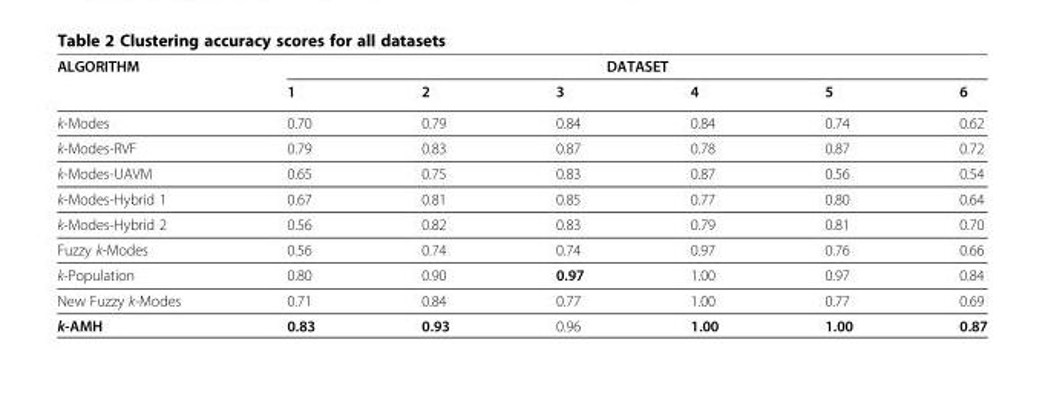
<table><thead><tr><td rowspan="2">ALGORITHM</td><td colspan="6">DATASET</td></tr><tr><td>1</td><td>2</td><td>3</td><td>4</td><td>5</td><td>6</td></tr></thead><tbody><tr><td>k-Modes</td><td>0.70</td><td>0.79</td><td>0.84</td><td>0.84</td><td>0.74</td><td>0.62</td></tr><tr><td>k-Modes-RVF</td><td>0.79</td><td>0.83</td><td>0.87</td><td>0.78</td><td>0.87</td><td>0.72</td></tr><tr><td>k-Modes-UAVM</td><td>0.65</td><td>0.75</td><td>0.83</td><td>0.87</td><td>0.56</td><td>0.54</td></tr><tr><td>k-Modes-Hybrid 1</td><td>0.67</td><td>0.81</td><td>0.85</td><td>0.77</td><td>0.80</td><td>0.64</td></tr><tr><td>k-Modes-Hybrid 2</td><td>0.56</td><td>0.82</td><td>0.83</td><td>0.79</td><td>0.81</td><td>0.70</td></tr><tr><td>Fuzzy k-Modes</td><td>0.56</td><td>0.74</td><td>0.74</td><td>0.97</td><td>0.76</td><td>0.66</td></tr><tr><td>k-Population</td><td>0.80</td><td>0.90</td><td>0.97</td><td>1.00</td><td>0.97</td><td>0.84</td></tr><tr><td>New Fuzzy k-Modes</td><td>0.71</td><td>0.84</td><td>0.77</td><td>1.00</td><td>0.77</td><td>0.69</td></tr><tr><td>k-AMH</td><td>0.83</td><td>0.93</td><td>0.96</td><td>1.00</td><td>1.00</td><td>0.87</td></tr></tbody></table>